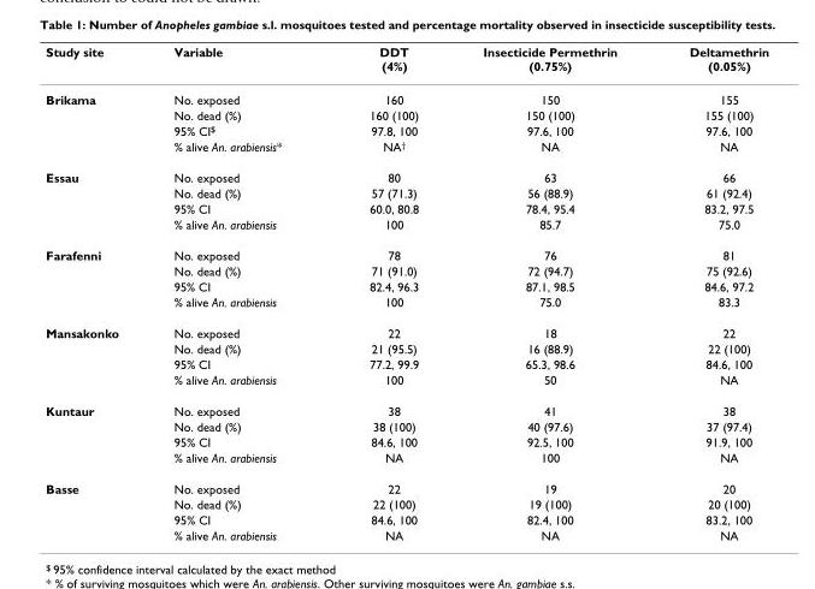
<table><thead><tr><td>Study site</td><td>Variable</td><td>DDT (4%)</td><td>Insecticide Permethrin (0.75%)</td><td>Deltamethrin (0.05%)</td></tr></thead><tbody><tr><td rowspan="4">Brikama</td><td>No. exposed</td><td>160</td><td>150</td><td>155</td></tr><tr><td>No. dead (%)</td><td>160 (100)</td><td>150 (100)</td><td>155 (100)</td></tr><tr><td>95% CI<sup>$</sup></td><td>97.8, 100</td><td>97.6, 100</td><td>97.6, 100</td></tr><tr><td>% alive An. arabiensis*</td><td>NA<sup>†</sup></td><td>NA</td><td>NA</td></tr><tr><td rowspan="4">Essau</td><td>No. exposed</td><td>80</td><td>63</td><td>66</td></tr><tr><td>No. dead (%)</td><td>57 (71.3)</td><td>56 (88.9)</td><td>61 (92.4)</td></tr><tr><td>95% CI</td><td>60.0, 80.8</td><td>78.4, 95.4</td><td>83.2, 97.5</td></tr><tr><td>% alive An. arabiensis</td><td>100</td><td>85.7</td><td>75.0</td></tr><tr><td rowspan="4">Farafenni</td><td>No. exposed</td><td>78</td><td>76</td><td>81</td></tr><tr><td>No. dead (%)</td><td>71 (91.0)</td><td>72 (94.7)</td><td>75 (92.6)</td></tr><tr><td>95% CI</td><td>82.4, 96.3</td><td>87.1, 98.5</td><td>84.6, 97.2</td></tr><tr><td>% alive An. arabiensis</td><td>100</td><td>75.0</td><td>83.3</td></tr><tr><td rowspan="4">Mansakonko</td><td>No. exposed</td><td>22</td><td>18</td><td>22</td></tr><tr><td>No. dead (%)</td><td>21 (95.5)</td><td>16 (88.9)</td><td>22 (100)</td></tr><tr><td>95% CI</td><td>77.2, 99.9</td><td>65.3, 98.6</td><td>84.6, 100</td></tr><tr><td>% alive An. arabiensis</td><td>100</td><td>50</td><td>NA</td></tr><tr><td rowspan="4">Kuntaur</td><td>No. exposed</td><td>38</td><td>41</td><td>38</td></tr><tr><td>No. dead (%)</td><td>38 (100)</td><td>40 (97.6)</td><td>37 (97.4)</td></tr><tr><td>95% CI</td><td>84.6, 100</td><td>92.5, 100</td><td>91.9, 100</td></tr><tr><td>% alive An. arabiensis</td><td>NA</td><td>100</td><td>NA</td></tr><tr><td rowspan="4">Basse</td><td>No. exposed</td><td>22</td><td>19</td><td>20</td></tr><tr><td>No. dead (%)</td><td>22 (100)</td><td>19 (100)</td><td>20 (100)</td></tr><tr><td>95% CI</td><td>84.6, 100</td><td>82.4, 100</td><td>83.2, 100</td></tr><tr><td>% alive An. arabiensis</td><td>NA</td><td>NA</td><td>NA</td></tr></tbody></table>